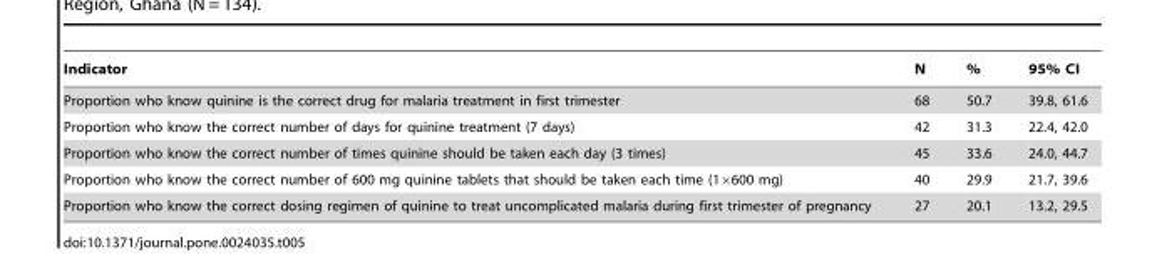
<table><thead><tr><td>Indicator</td><td>N</td><td>%</td><td>95% CI</td></tr></thead><tbody><tr><td>Proportion who know quinine is the correct drug for malaria treatment in first trimester</td><td>68</td><td>50.7</td><td>39.8, 61.6</td></tr><tr><td>Proportion who know the correct number of days for quinine treatment (7 days)</td><td>42</td><td>31.3</td><td>22.4, 42.0</td></tr><tr><td>Proportion who know the correct number of times quinine should be taken each day (3 times)</td><td>45</td><td>33.6</td><td>24.0, 44.7</td></tr><tr><td>Proportion who know the correct number of 600 mg quinine tablets that should be taken each time (1×600 mg)</td><td>40</td><td>29.9</td><td>21.7, 39.6</td></tr><tr><td>Proportion who know the correct dosing regimen of quinine to treat uncomplicated malaria during first trimester of pregnancy</td><td>27</td><td>20.1</td><td>13.2, 29.5</td></tr></tbody></table>